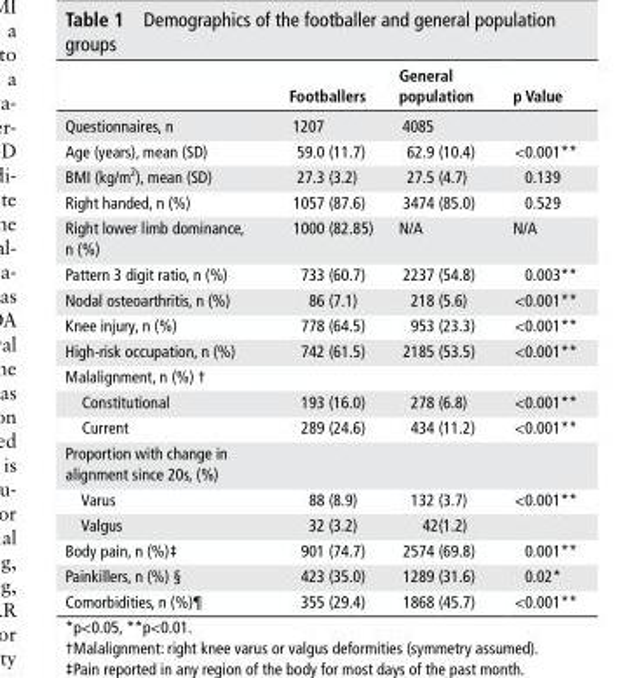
<table><thead><tr><td></td><td>Footballers</td><td>General population</td><td>p Value</td></tr></thead><tbody><tr><td>Questionnaires, n</td><td>1207</td><td>4085</td><td></td></tr><tr><td>Age (years), mean (SD)</td><td>59.0 (11.7)</td><td>62.9 (10.4)</td><td>&lt;0.001**</td></tr><tr><td>BMI (kg/m<sup>2</sup>), mean (SD)</td><td>27.3 (3.2)</td><td>27.5 (4.7)</td><td>0.139</td></tr><tr><td>Right handed, n (%)</td><td>1057 (87.6)</td><td>3474 (85.0)</td><td>0.529</td></tr><tr><td>Right lower limb dominance, n (%)</td><td>1000 (82.85)</td><td>N/A</td><td>N/A</td></tr><tr><td>Pattern 3 digit ratio, n (%)</td><td>733 (60.7)</td><td>2237 (54.8)</td><td>0.003**</td></tr><tr><td>Nodal osteoarthritis, n (%)</td><td>86 (7.1)</td><td>218 (5.6)</td><td>&lt;0.001**</td></tr><tr><td>Knee injury, n (%)</td><td>778 (64.5)</td><td>953 (23.3)</td><td>&lt;0.001**</td></tr><tr><td>High-risk occupation, n (%)</td><td>742 (61.5)</td><td>2185 (53.5)</td><td>&lt;0.001**</td></tr><tr><td colspan="4">Malalignment, n (%) †</td></tr><tr><td>Constitutional</td><td>193 (16.0)</td><td>278 (6.8)</td><td>&lt;0.001**</td></tr><tr><td>Current</td><td>289 (24.6)</td><td>434 (11.2)</td><td>&lt;0.001**</td></tr><tr><td colspan="4">Proportion with change in alignment since 20s, (%)</td></tr><tr><td>Varus</td><td>88 (8.9)</td><td>132 (3.7)</td><td>&lt;0.001**</td></tr><tr><td>Valgus</td><td>32 (3.2)</td><td>42(1.2)</td><td></td></tr><tr><td>Body pain, n (%)‡</td><td>901 (74.7)</td><td>2574 (69.8)</td><td>0.001**</td></tr><tr><td>Painkillers, n (%) §</td><td>423 (35.0)</td><td>1289 (31.6)</td><td>0.02*</td></tr><tr><td>Comorbidities, n (%)¶</td><td>355 (29.4)</td><td>1868 (45.7)</td><td>&lt;0.001**</td></tr></tbody></table>